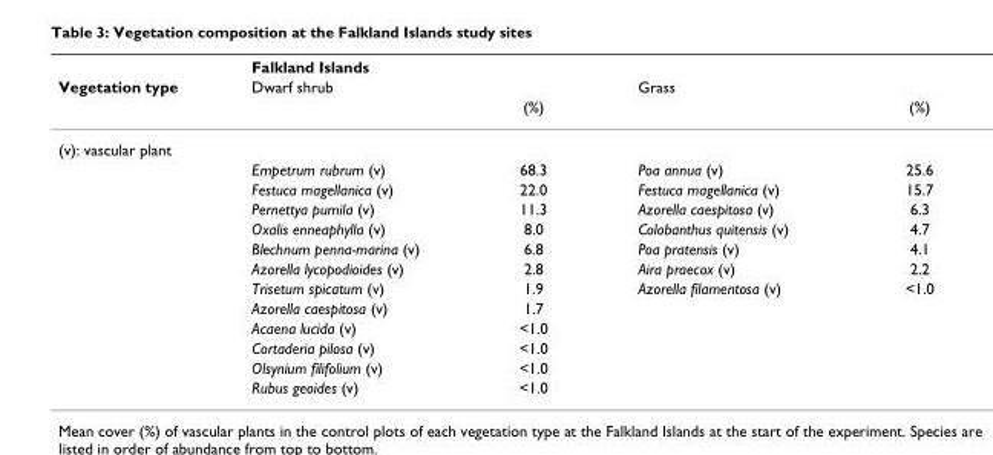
<table><thead><tr><td rowspan="3">Vegetation type</td><td rowspan="3">Falkland Islands Dwarf shrub</td><td rowspan="3">(%)</td><td rowspan="3">Grass</td><td rowspan="3">(%)</td></tr><tr></tr><tr></tr></thead><tbody><tr><td colspan="5">(v): vascular plant</td></tr><tr><td></td><td>Empetrum rubrum (v)</td><td>68.3</td><td>Poa annua (v)</td><td>25.6</td></tr><tr><td></td><td>Festuca magellanica (v)</td><td>22.0</td><td>Festuca magellanica (v)</td><td>15.7</td></tr><tr><td></td><td>Pernettya pumila (v)</td><td>11.3</td><td>Azorella caespitosa (v)</td><td>6.3</td></tr><tr><td></td><td>Oxalis enneaphylla (v)</td><td>8.0</td><td>Colobanthus quitensis (v)</td><td>4.7</td></tr><tr><td></td><td>Blechnum penna-marina (v)</td><td>6.8</td><td>Poa pratensis (v)</td><td>4.1</td></tr><tr><td></td><td>Azorella lycopodioides (v)</td><td>2.8</td><td>Aira praecox (v)</td><td>2.2</td></tr><tr><td></td><td>Trisetum spicatum (v)</td><td>1.9</td><td>Azorella filamentosa (v)</td><td>&lt;1.0</td></tr><tr><td></td><td>Azorella caespitosa (v)</td><td>1.7</td><td></td><td></td></tr><tr><td></td><td>Acaena lucida (v)</td><td>&lt;1.0</td><td></td><td></td></tr><tr><td></td><td>Cortaderia pilosa (v)</td><td>&lt;1.0</td><td></td><td></td></tr><tr><td></td><td>Olsynium filifolium (v)</td><td>&lt;1.0</td><td></td><td></td></tr><tr><td></td><td>Rubus geoides (v)</td><td>&lt;1.0</td><td></td><td></td></tr></tbody></table>